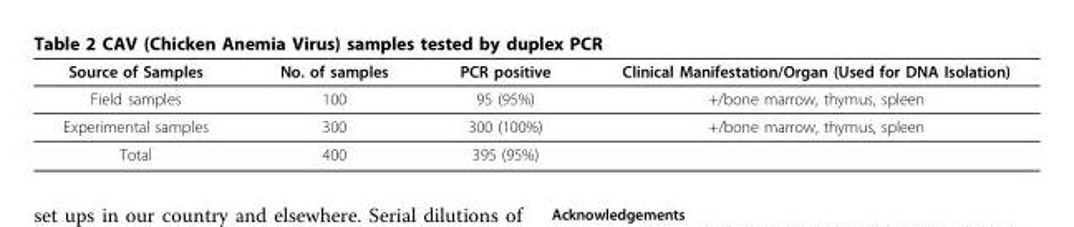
<table><thead><tr><td>Source of Samples</td><td>No. of samples</td><td>PCR positive</td><td>Clinical Manifestation/Organ (Used for DNA Isolation)</td></tr></thead><tbody><tr><td>Field samples</td><td>100</td><td>95 (95%)</td><td>+/bone marrow, thymus, spleen</td></tr><tr><td>Experimental samples</td><td>300</td><td>300 (100%)</td><td>+/bone marrow, thymus, spleen</td></tr><tr><td>Total</td><td>400</td><td>395 (95%)</td><td></td></tr></tbody></table>